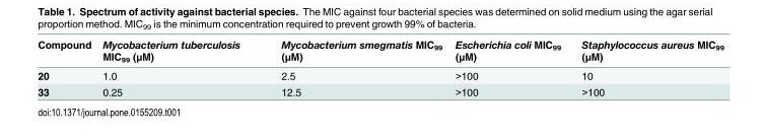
<table><thead><tr><td>Compound</td><td>Mycobacterium tuberculosis MIC<sub>99</sub> (μM)</td><td>Mycobacterium smegmatis MIC<sub>99</sub> (μM)</td><td>Escherichia coli MIC<sub>99</sub> (μM)</td><td>Staphylococcus aureus MIC<sub>99</sub> (μM)</td></tr></thead><tbody><tr><td>20</td><td>1.0</td><td>2.5</td><td>&gt;100</td><td>10</td></tr><tr><td>33</td><td>0.25</td><td>12.5</td><td>&gt;100</td><td>&gt;100</td></tr></tbody></table>